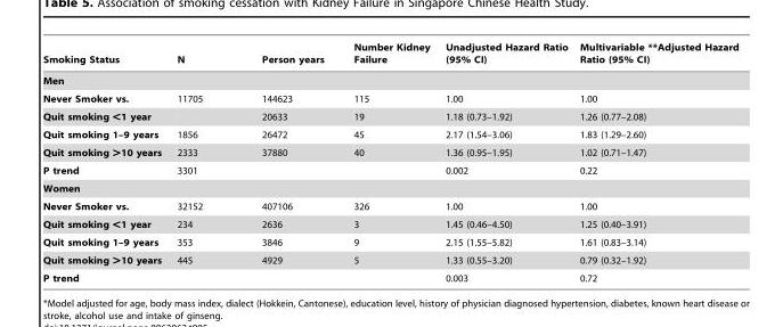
<table><thead><tr><td>Smoking Status</td><td>N</td><td>Person years</td><td>Number Kidney Failure</td><td>Unadjusted Hazard Ratio (95% CI)</td><td>Multivariable **Adjusted Hazard Ratio (95% CI)</td></tr></thead><tbody><tr><td colspan="6">Men</td></tr><tr><td>Never Smoker vs.</td><td>11705</td><td>144623</td><td>115</td><td>1.00</td><td>1.00</td></tr><tr><td>Quit smoking &lt;1 year</td><td></td><td>20633</td><td>19</td><td>1.18 (0.73–1.92)</td><td>1.26 (0.77–2.08)</td></tr><tr><td>Quit smoking 1–9 years</td><td>1856</td><td>26472</td><td>45</td><td>2.17 (1.54–3.06)</td><td>1.83 (1.29–2.60)</td></tr><tr><td>Quit smoking &gt;10 years</td><td>2333</td><td>37880</td><td>40</td><td>1.36 (0.95–1.95)</td><td>1.02 (0.71–1.47)</td></tr><tr><td>P trend</td><td>3301</td><td></td><td></td><td>0.002</td><td>0.22</td></tr><tr><td colspan="6">Women</td></tr><tr><td>Never Smoker vs.</td><td>32152</td><td>407106</td><td>326</td><td>1.00</td><td>1.00</td></tr><tr><td>Quit smoking &lt;1 year</td><td>234</td><td>2636</td><td>3</td><td>1.45 (0.46–4.50)</td><td>1.25 (0.40–3.91)</td></tr><tr><td>Quit smoking 1–9 years</td><td>353</td><td>3846</td><td>9</td><td>2.15 (1.55–5.82)</td><td>1.61 (0.83–3.14)</td></tr><tr><td>Quit smoking &gt;10 years</td><td>445</td><td>4929</td><td>5</td><td>1.33 (0.55–3.20)</td><td>0.79 (0.32–1.92)</td></tr><tr><td>P trend</td><td></td><td></td><td></td><td>0.003</td><td>0.72</td></tr></tbody></table>